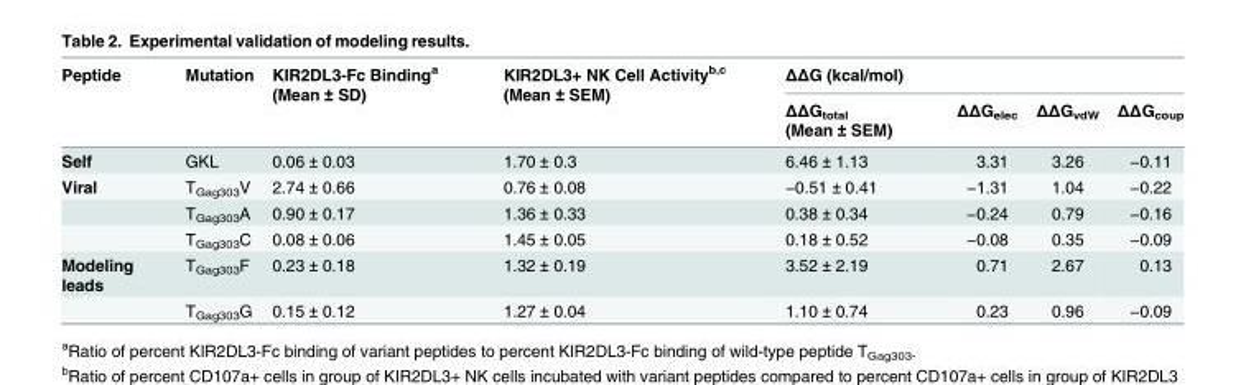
<table><thead><tr><td rowspan="2">Peptide</td><td rowspan="2">Mutation</td><td rowspan="2">KIR2DL3-Fc Binding<sup>a</sup> (Mean ± SD)</td><td rowspan="2">KIR2DL3+ NK Cell Activity<sup>b,c</sup> (Mean ± SEM)</td><td colspan="4">ΔΔG (kcal/mol)</td></tr><tr><td>ΔΔG<sub>total</sub> (Mean ± SEM)</td><td>ΔΔG<sub>elec</sub></td><td>ΔΔG<sub>vdW</sub></td><td>ΔΔG<sub>coup</sub></td></tr></thead><tbody><tr><td>Self</td><td>GKL</td><td>0.06 ± 0.03</td><td>1.70 ± 0.3</td><td>6.46 ± 1.13</td><td>3.31</td><td>3.26</td><td>−0.11</td></tr><tr><td rowspan="3">Viral</td><td>T<sub>Gag303</sub>V</td><td>2.74 ± 0.66</td><td>0.76 ± 0.08</td><td>−0.51 ± 0.41</td><td>−1.31</td><td>1.04</td><td>−0.22</td></tr><tr><td>T<sub>Gag303</sub>A</td><td>0.90 ± 0.17</td><td>1.36 ± 0.33</td><td>0.38 ± 0.34</td><td>−0.24</td><td>0.79</td><td>−0.16</td></tr><tr><td>T<sub>Gag303</sub>C</td><td>0.08 ± 0.06</td><td>1.45 ± 0.05</td><td>0.18 ± 0.52</td><td>−0.08</td><td>0.35</td><td>−0.09</td></tr><tr><td rowspan="2">Modeling leads</td><td>T<sub>Gag303</sub>F</td><td>0.23 ± 0.18</td><td>1.32 ± 0.19</td><td>3.52 ± 2.19</td><td>0.71</td><td>2.67</td><td>0.13</td></tr><tr><td>T<sub>Gag303</sub>G</td><td>0.15 ± 0.12</td><td>1.27 ± 0.04</td><td>1.10 ± 0.74</td><td>0.23</td><td>0.96</td><td>−0.09</td></tr></tbody></table>